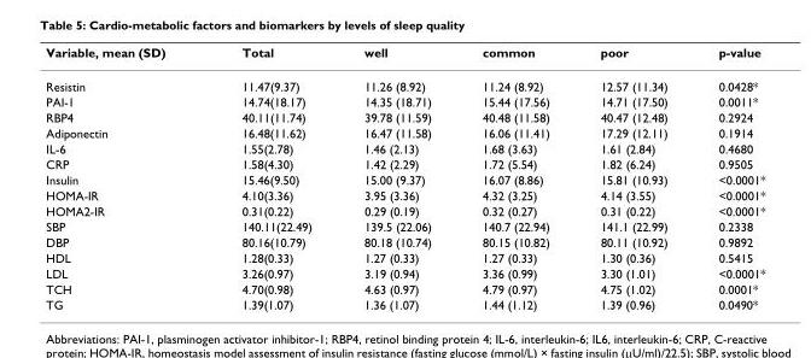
<table><thead><tr><td>Variable, mean (SD)</td><td>Total</td><td>well</td><td>common</td><td>poor</td><td>p-value</td></tr></thead><tbody><tr><td>Resistin</td><td>11.47(9.37)</td><td>11.26 (8.92)</td><td>11.24 (8.92)</td><td>12.57 (11.34)</td><td>0.0428*</td></tr><tr><td>PAI-1</td><td>14.74(18.17)</td><td>14.35 (18.71)</td><td>15.44 (17.56)</td><td>14.71 (17.50)</td><td>0.0011*</td></tr><tr><td>RBP4</td><td>40.11(11.74)</td><td>39.78 (11.59)</td><td>40.48 (11.58)</td><td>40.47 (12.48)</td><td>0.2924</td></tr><tr><td>Adiponectin</td><td>16.48(11.62)</td><td>16.47 (11.58)</td><td>16.06 (11.41)</td><td>17.29 (12.11)</td><td>0.1914</td></tr><tr><td>IL-6</td><td>1.55(2.78)</td><td>1.46 (2.13)</td><td>1.68 (3.63)</td><td>1.61 (2.84)</td><td>0.4680</td></tr><tr><td>CRP</td><td>1.58(4.30)</td><td>1.42 (2.29)</td><td>1.72 (5.54)</td><td>1.82 (6.24)</td><td>0.9505</td></tr><tr><td>Insulin</td><td>15.46(9.50)</td><td>15.00 (9.37)</td><td>16.07 (8.86)</td><td>15.81 (10.93)</td><td>&lt;0.0001*</td></tr><tr><td>HOMA-IR</td><td>4.10(3.36)</td><td>3.95 (3.36)</td><td>4.32 (3.25)</td><td>4.14 (3.55)</td><td>&lt;0.0001*</td></tr><tr><td>HOMA2-IR</td><td>0.31(0.22)</td><td>0.29 (0.19)</td><td>0.32 (0.27)</td><td>0.31 (0.22)</td><td>&lt;0.0001*</td></tr><tr><td>SBP</td><td>140.11(22.49)</td><td>139.5 (22.06)</td><td>140.7 (22.94)</td><td>141.1 (22.99)</td><td>0.2338</td></tr><tr><td>DBP</td><td>80.16(10.79)</td><td>80.18 (10.74)</td><td>80.15 (10.82)</td><td>80.11 (10.92)</td><td>0.9892</td></tr><tr><td>HDL</td><td>1.28(0.33)</td><td>1.27 (0.33)</td><td>1.27 (0.33)</td><td>1.30 (0.36)</td><td>0.5415</td></tr><tr><td>LDL</td><td>3.26(0.97)</td><td>3.19 (0.94)</td><td>3.36 (0.99)</td><td>3.30 (1.01)</td><td>&lt;0.0001*</td></tr><tr><td>TCH</td><td>4.70(0.98)</td><td>4.63 (0.97)</td><td>4.79 (0.97)</td><td>4.75 (1.02)</td><td>0.0001*</td></tr><tr><td>TG</td><td>1.39(1.07)</td><td>1.36 (1.07)</td><td>1.44 (1.12)</td><td>1.39 (0.96)</td><td>0.0490*</td></tr></tbody></table>